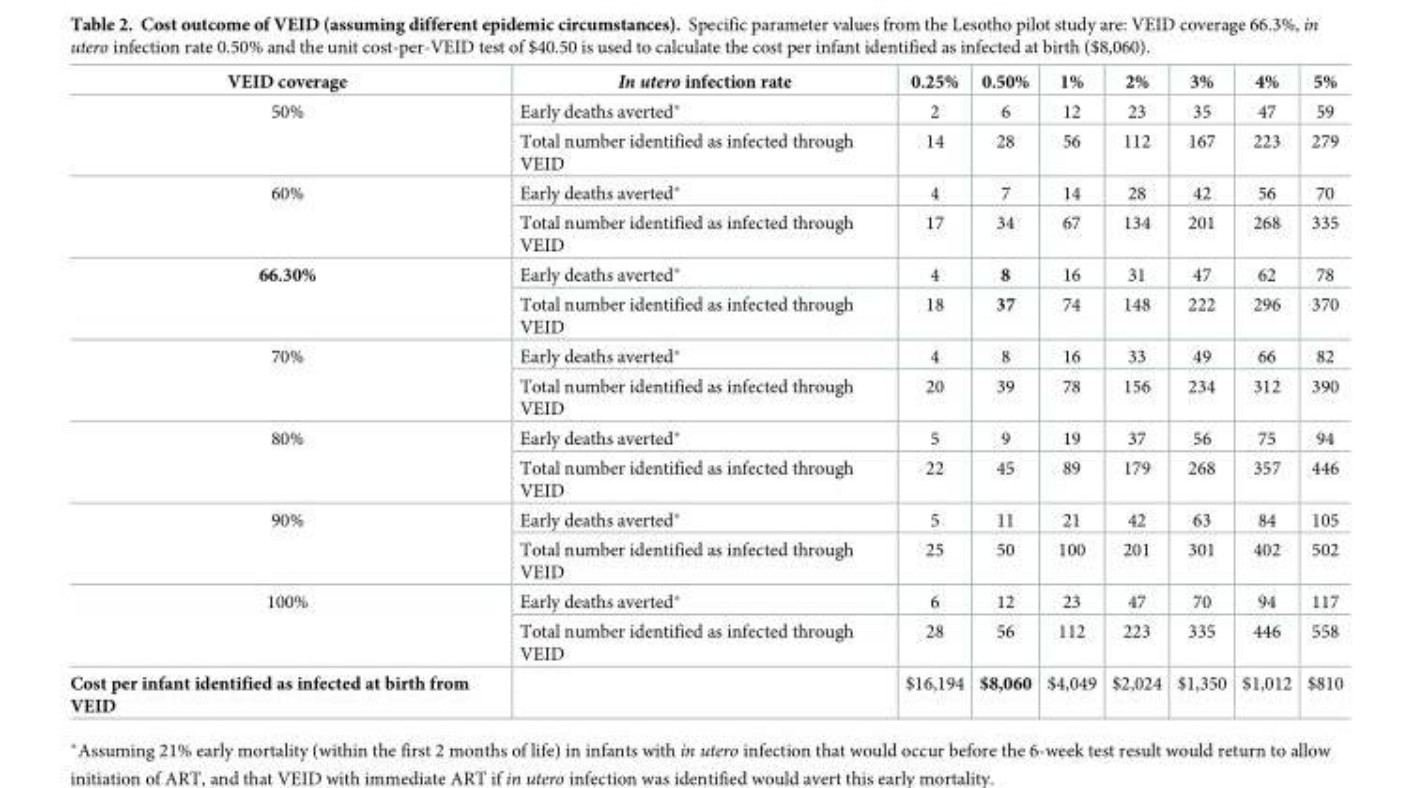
<table><thead><tr><td>VEID coverage</td><td>In utero infection rate</td><td>0.25%</td><td>0.50%</td><td>1%</td><td>2%</td><td>3%</td><td>4%</td><td>5%</td></tr></thead><tbody><tr><td rowspan="2">50%</td><td>Early deaths averted*</td><td>2</td><td>6</td><td>12</td><td>23</td><td>35</td><td>47</td><td>59</td></tr><tr><td>Total number identified as infected through VEID</td><td>14</td><td>28</td><td>56</td><td>112</td><td>167</td><td>223</td><td>279</td></tr><tr><td rowspan="2">60%</td><td>Early deaths averted*</td><td>4</td><td>7</td><td>14</td><td>28</td><td>42</td><td>56</td><td>70</td></tr><tr><td>Total number identified as infected through VEID</td><td>17</td><td>34</td><td>67</td><td>134</td><td>201</td><td>268</td><td>335</td></tr><tr><td rowspan="2">66.30%</td><td>Early deaths averted*</td><td>4</td><td>8</td><td>16</td><td>31</td><td>47</td><td>62</td><td>78</td></tr><tr><td>Total number identified as infected through VEID</td><td>18</td><td>37</td><td>74</td><td>148</td><td>222</td><td>296</td><td>370</td></tr><tr><td rowspan="2">70%</td><td>Early deaths averted*</td><td>4</td><td>8</td><td>16</td><td>33</td><td>49</td><td>66</td><td>82</td></tr><tr><td>Total number identified as infected through VEID</td><td>20</td><td>39</td><td>78</td><td>156</td><td>234</td><td>312</td><td>390</td></tr><tr><td rowspan="2">80%</td><td>Early deaths averted*</td><td>5</td><td>9</td><td>19</td><td>37</td><td>56</td><td>75</td><td>94</td></tr><tr><td>Total number identified as infected through VEID</td><td>22</td><td>45</td><td>89</td><td>179</td><td>268</td><td>357</td><td>446</td></tr><tr><td rowspan="2">90%</td><td>Early deaths averted*</td><td>5</td><td>11</td><td>21</td><td>42</td><td>63</td><td>84</td><td>105</td></tr><tr><td>Total number identified as infected through VEID</td><td>25</td><td>50</td><td>100</td><td>201</td><td>301</td><td>402</td><td>502</td></tr><tr><td rowspan="2">100%</td><td>Early deaths averted*</td><td>6</td><td>12</td><td>23</td><td>47</td><td>70</td><td>94</td><td>117</td></tr><tr><td>Total number identified as infected through VEID</td><td>28</td><td>56</td><td>112</td><td>223</td><td>335</td><td>446</td><td>558</td></tr><tr><td>Cost per infant identified as infected at birth from VEID</td><td></td><td>$16,194</td><td>$8,060</td><td>$4,049</td><td>$2,024</td><td>$1,350</td><td>$1,012</td><td>$810</td></tr></tbody></table>